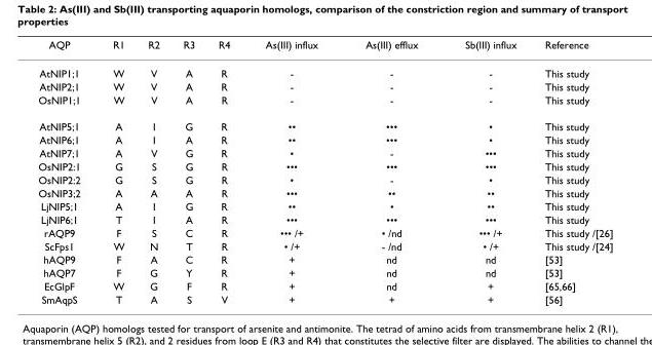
<table><thead><tr><td>AQP</td><td>R1</td><td>R2</td><td>R3</td><td>R4</td><td>As(III) influx</td><td>As(III) efflux</td><td>Sb(III) influx</td><td>Reference</td></tr></thead><tbody><tr><td>AtNIP1;1</td><td>W</td><td>V</td><td>A</td><td>R</td><td>-</td><td>-</td><td>-</td><td>This study</td></tr><tr><td>AtNIP2;1</td><td>W</td><td>V</td><td>A</td><td>R</td><td>-</td><td>-</td><td>-</td><td>This study</td></tr><tr><td>OsNIP1;1</td><td>W</td><td>V</td><td>A</td><td>R</td><td>-</td><td>-</td><td>-</td><td>This study</td></tr><tr><td>AtNIP5;1</td><td>A</td><td>I</td><td>G</td><td>R</td><td>••</td><td>•••</td><td>•</td><td>This study</td></tr><tr><td>AtNIP6;1</td><td>A</td><td>I</td><td>A</td><td>R</td><td>••</td><td>•••</td><td>•</td><td>This study</td></tr><tr><td>AtNIP7;1</td><td>A</td><td>V</td><td>G</td><td>R</td><td>•</td><td>-</td><td>•••</td><td>This study</td></tr><tr><td>OsNIP2:1</td><td>G</td><td>S</td><td>G</td><td>R</td><td>•••</td><td>•••</td><td>•••</td><td>This study</td></tr><tr><td>OsNIP2:2</td><td>G</td><td>S</td><td>G</td><td>R</td><td>•</td><td>-</td><td>•</td><td>This study</td></tr><tr><td>OsNIP3;2</td><td>A</td><td>A</td><td>A</td><td>R</td><td>•••</td><td>••</td><td>••</td><td>This study</td></tr><tr><td>LjNIP5;1</td><td>A</td><td>I</td><td>G</td><td>R</td><td>••</td><td>•</td><td>••</td><td>This study</td></tr><tr><td>LjNIP6;1</td><td>T</td><td>I</td><td>A</td><td>R</td><td>•••</td><td>•••</td><td>•••</td><td>This study</td></tr><tr><td>rAQP9</td><td>F</td><td>S</td><td>C</td><td>R</td><td>••• /+</td><td>• /nd</td><td>••• /+</td><td>This study /[26]</td></tr><tr><td>ScFps1</td><td>W</td><td>N</td><td>T</td><td>R</td><td>• /+</td><td>- /nd</td><td>• /+</td><td>This study /[24]</td></tr><tr><td>hAQP9</td><td>F</td><td>A</td><td>C</td><td>R</td><td>+</td><td>nd</td><td>nd</td><td>[53]</td></tr><tr><td>hAQP7</td><td>F</td><td>G</td><td>Y</td><td>R</td><td>+</td><td>nd</td><td>nd</td><td>[53]</td></tr><tr><td>EcGlpF</td><td>W</td><td>G</td><td>F</td><td>R</td><td>+</td><td>nd</td><td>+</td><td>[65,66]</td></tr><tr><td>SmAqpS</td><td>T</td><td>A</td><td>S</td><td>V</td><td>+</td><td>+</td><td>+</td><td>[56]</td></tr></tbody></table>